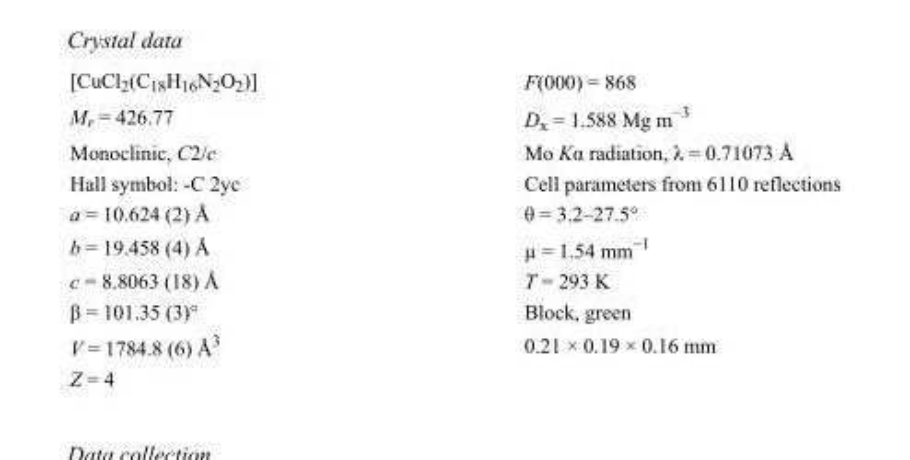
<table><tbody><tr><td>[CuCl<sub>2</sub>(C<sub>18</sub>H<sub>16</sub>N<sub>2</sub>O<sub>2</sub>)]</td><td>F(000) = 868</td></tr><tr><td>M<sub>r</sub> = 426.77</td><td>D<sub>x</sub> = 1.588 Mg m<sup>−3</sup></td></tr><tr><td>Monoclinic, C2/c</td><td>Mo Kα radiation, λ = 0.71073 Å</td></tr><tr><td>Hall symbol: -C 2yc</td><td>Cell parameters from 6110 reflections</td></tr><tr><td>a = 10.624 (2) Å</td><td>θ = 3.2–27.5°</td></tr><tr><td>b = 19.458 (4) Å</td><td>µ = 1.54 mm<sup>−1</sup></td></tr><tr><td>c = 8.8063 (18) Å</td><td>T = 293 K</td></tr><tr><td>β = 101.35 (3)°</td><td>Block, green</td></tr><tr><td>V = 1784.8 (6) Å<sup>3</sup></td><td>0.21 × 0.19 × 0.16 mm</td></tr><tr><td>Z = 4</td><td></td></tr></tbody></table>